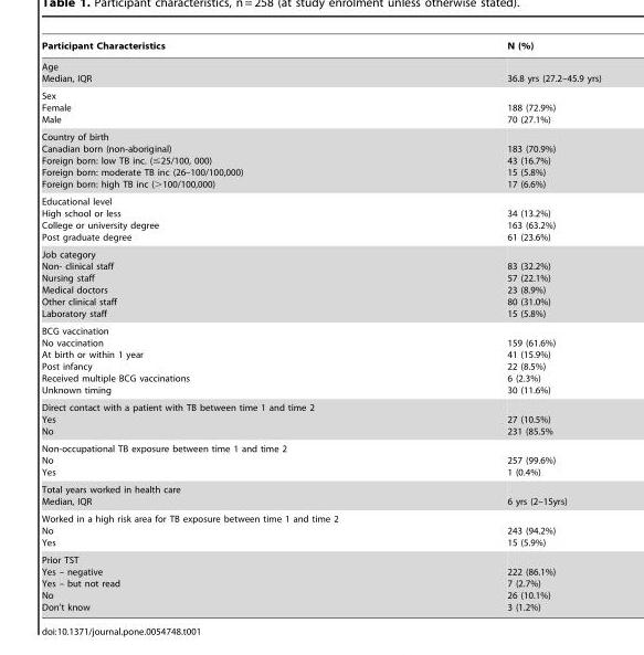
<table><thead><tr><td>Participant Characteristics</td><td>N (%)</td></tr></thead><tbody><tr><td>Age Median, IQR</td><td>36.8 yrs (27.2–45.9 yrs)</td></tr><tr><td>Sex Female Male</td><td>188 (72.9%) 70 (27.1%)</td></tr><tr><td>Country of birth Canadian born (non-aboriginal) Foreign born: low TB inc. (≤25/100, 000) Foreign born: moderate TB inc (26–100/100,000) Foreign born: high TB inc (&gt;100/100,000)</td><td>183 (70.9%) 43 (16.7%) 15 (5.8%) 17 (6.6%)</td></tr><tr><td>Educational level High school or less College or university degree Post graduate degree</td><td>34 (13.2%) 163 (63.2%) 61 (23.6%)</td></tr><tr><td>Job category Non- clinical staff Nursing staff Medical doctors Other clinical staff Laboratory staff</td><td>83 (32.2%) 57 (22.1%) 23 (8.9%) 80 (31.0%) 15 (5.8%)</td></tr><tr><td>BCG vaccination No vaccination At birth or within 1 year Post infancy Received multiple BCG vaccinations Unknown timing</td><td>159 (61.6%) 41 (15.9%) 22 (8.5%) 6 (2.3%) 30 (11.6%)</td></tr><tr><td>Direct contact with a patient with TB between time 1 and time 2 Yes No</td><td>27 (10.5%) 231 (85.5%</td></tr><tr><td>Non-occupational TB exposure between time 1 and time 2 No Yes</td><td>257 (99.6%) 1 (0.4%)</td></tr><tr><td>Total years worked in health care Median, IQR</td><td>6 yrs (2–15yrs)</td></tr><tr><td>Worked in a high risk area for TB exposure between time 1 and time 2 No Yes</td><td>243 (94.2%) 15 (5.9%)</td></tr><tr><td>Prior TST Yes – negative Yes – but not read No Don’t know</td><td>222 (86.1%) 7 (2.7%) 26 (10.1%) 3 (1.2%)</td></tr></tbody></table>